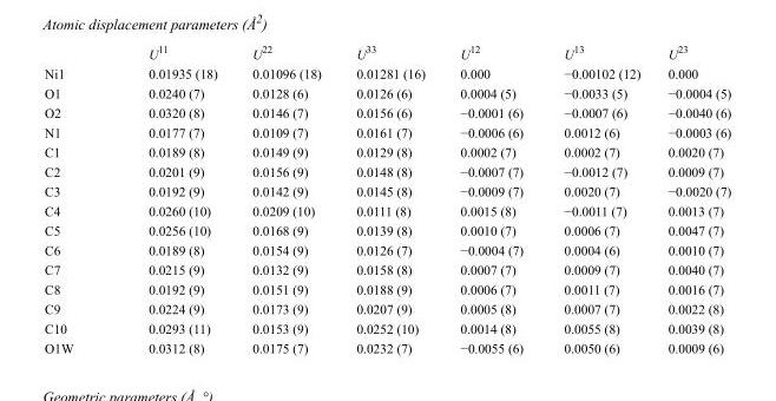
<table><thead><tr><td></td><td>U<sup>11</sup></td><td>U<sup>22</sup></td><td>U<sup>33</sup></td><td>U<sup>12</sup></td><td>U<sup>13</sup></td><td>U<sup>23</sup></td></tr></thead><tbody><tr><td>Ni1</td><td>0.01935 (18)</td><td>0.01096 (18)</td><td>0.01281 (16)</td><td>0.000</td><td>−0.00102 (12)</td><td>0.000</td></tr><tr><td>O1</td><td>0.0240 (7)</td><td>0.0128 (6)</td><td>0.0126 (6)</td><td>0.0004 (5)</td><td>−0.0033 (5)</td><td>−0.0004 (5)</td></tr><tr><td>O2</td><td>0.0320 (8)</td><td>0.0146 (7)</td><td>0.0156 (6)</td><td>−0.0001 (6)</td><td>−0.0007 (6)</td><td>−0.0040 (6)</td></tr><tr><td>N1</td><td>0.0177 (7)</td><td>0.0109 (7)</td><td>0.0161 (7)</td><td>−0.0006 (6)</td><td>0.0012 (6)</td><td>−0.0003 (6)</td></tr><tr><td>C1</td><td>0.0189 (8)</td><td>0.0149 (9)</td><td>0.0129 (8)</td><td>0.0002 (7)</td><td>0.0002 (7)</td><td>0.0020 (7)</td></tr><tr><td>C2</td><td>0.0201 (9)</td><td>0.0156 (9)</td><td>0.0148 (8)</td><td>−0.0007 (7)</td><td>−0.0012 (7)</td><td>0.0009 (7)</td></tr><tr><td>C3</td><td>0.0192 (9)</td><td>0.0142 (9)</td><td>0.0145 (8)</td><td>−0.0009 (7)</td><td>0.0020 (7)</td><td>−0.0020 (7)</td></tr><tr><td>C4</td><td>0.0260 (10)</td><td>0.0209 (10)</td><td>0.0111 (8)</td><td>0.0015 (8)</td><td>−0.0011 (7)</td><td>0.0013 (7)</td></tr><tr><td>C5</td><td>0.0256 (10)</td><td>0.0168 (9)</td><td>0.0139 (8)</td><td>0.0010 (7)</td><td>0.0006 (7)</td><td>0.0047 (7)</td></tr><tr><td>C6</td><td>0.0189 (8)</td><td>0.0154 (9)</td><td>0.0126 (7)</td><td>−0.0004 (7)</td><td>0.0004 (6)</td><td>0.0010 (7)</td></tr><tr><td>C7</td><td>0.0215 (9)</td><td>0.0132 (9)</td><td>0.0158 (8)</td><td>0.0007 (7)</td><td>0.0009 (7)</td><td>0.0040 (7)</td></tr><tr><td>C8</td><td>0.0192 (9)</td><td>0.0151 (9)</td><td>0.0188 (9)</td><td>0.0006 (7)</td><td>0.0011 (7)</td><td>0.0016 (7)</td></tr><tr><td>C9</td><td>0.0224 (9)</td><td>0.0173 (9)</td><td>0.0207 (9)</td><td>0.0005 (8)</td><td>0.0007 (7)</td><td>0.0022 (8)</td></tr><tr><td>C10</td><td>0.0293 (11)</td><td>0.0153 (9)</td><td>0.0252 (10)</td><td>0.0014 (8)</td><td>0.0055 (8)</td><td>0.0039 (8)</td></tr><tr><td>O1W</td><td>0.0312 (8)</td><td>0.0175 (7)</td><td>0.0232 (7)</td><td>−0.0055 (6)</td><td>0.0050 (6)</td><td>0.0009 (6)</td></tr></tbody></table>